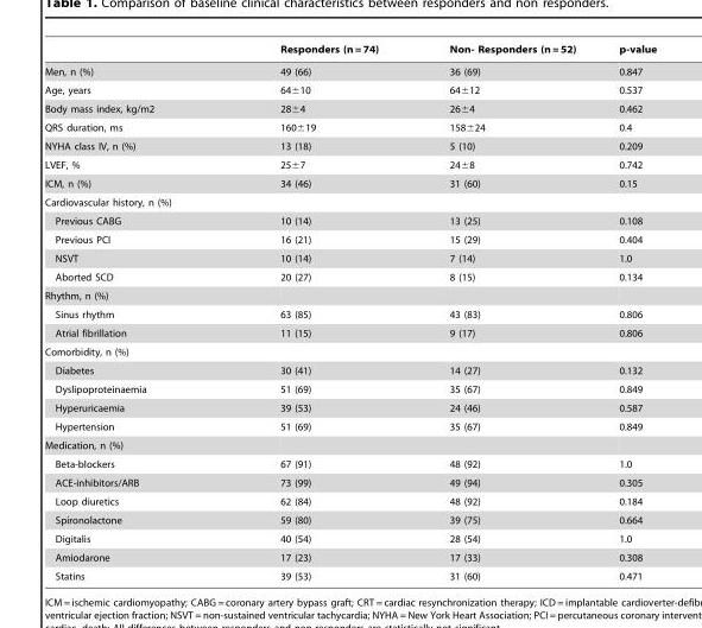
<table><thead><tr><td></td><td>Responders (n = 74)</td><td>Non- Responders (n = 52)</td><td>p-value</td></tr></thead><tbody><tr><td>Men, n (%)</td><td>49 (66)</td><td>36 (69)</td><td>0.847</td></tr><tr><td>Age, years</td><td>64±10</td><td>64±12</td><td>0.537</td></tr><tr><td>Body mass index, kg/m2</td><td>28±4</td><td>26±4</td><td>0.462</td></tr><tr><td>QRS duration, ms</td><td>160±19</td><td>158±24</td><td>0.4</td></tr><tr><td>NYHA class IV, n (%)</td><td>13 (18)</td><td>5 (10)</td><td>0.209</td></tr><tr><td>LVEF, %</td><td>25±7</td><td>24±8</td><td>0.742</td></tr><tr><td>ICM, n (%)</td><td>34 (46)</td><td>31 (60)</td><td>0.15</td></tr><tr><td colspan="4">Cardiovascular history, n (%)</td></tr><tr><td>Previous CABG</td><td>10 (14)</td><td>13 (25)</td><td>0.108</td></tr><tr><td>Previous PCI</td><td>16 (21)</td><td>15 (29)</td><td>0.404</td></tr><tr><td>NSVT</td><td>10 (14)</td><td>7 (14)</td><td>1.0</td></tr><tr><td>Aborted SCD</td><td>20 (27)</td><td>8 (15)</td><td>0.134</td></tr><tr><td colspan="4">Rhythm, n (%)</td></tr><tr><td>Sinus rhythm</td><td>63 (85)</td><td>43 (83)</td><td>0.806</td></tr><tr><td>Atrial fibrillation</td><td>11 (15)</td><td>9 (17)</td><td>0.806</td></tr><tr><td colspan="4">Comorbidity, n (%)</td></tr><tr><td>Diabetes</td><td>30 (41)</td><td>14 (27)</td><td>0.132</td></tr><tr><td>Dyslipoproteinaemia</td><td>51 (69)</td><td>35 (67)</td><td>0.849</td></tr><tr><td>Hyperuricaemia</td><td>39 (53)</td><td>24 (46)</td><td>0.587</td></tr><tr><td>Hypertension</td><td>51 (69)</td><td>35 (67)</td><td>0.849</td></tr><tr><td colspan="4">Medication, n (%)</td></tr><tr><td>Beta-blockers</td><td>67 (91)</td><td>48 (92)</td><td>1.0</td></tr><tr><td>ACE-inhibitors/ARB</td><td>73 (99)</td><td>49 (94)</td><td>0.305</td></tr><tr><td>Loop diuretics</td><td>62 (84)</td><td>48 (92)</td><td>0.184</td></tr><tr><td>Spironolactone</td><td>59 (80)</td><td>39 (75)</td><td>0.664</td></tr><tr><td>Digitalis</td><td>40 (54)</td><td>28 (54)</td><td>1.0</td></tr><tr><td>Amiodarone</td><td>17 (23)</td><td>17 (33)</td><td>0.308</td></tr><tr><td>Statins</td><td>39 (53)</td><td>31 (60)</td><td>0.471</td></tr></tbody></table>